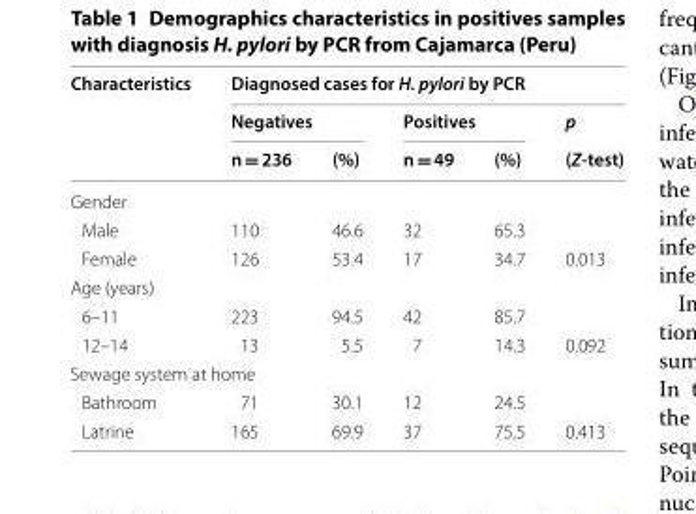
<table><thead><tr><td rowspan="3">Characteristics</td><td colspan="5">Diagnosed cases for H. pylori by PCR</td></tr><tr><td colspan="2">Negatives</td><td colspan="2">Positives</td><td rowspan="2">p (Z-test)</td></tr><tr><td>n = 236</td><td>(%)</td><td>n = 49</td><td>(%)</td></tr></thead><tbody><tr><td colspan="6">Gender</td></tr><tr><td>Male</td><td>110</td><td>46.6</td><td>32</td><td>65.3</td><td></td></tr><tr><td>Female</td><td>126</td><td>53.4</td><td>17</td><td>34.7</td><td>0.013</td></tr><tr><td colspan="6">Age (years)</td></tr><tr><td>6–11</td><td>223</td><td>94.5</td><td>42</td><td>85.7</td><td></td></tr><tr><td>12–14</td><td>13</td><td>5.5</td><td>7</td><td>14.3</td><td>0.092</td></tr><tr><td colspan="6">Sewage system at home</td></tr><tr><td>Bathroom</td><td>71</td><td>30.1</td><td>12</td><td>24.5</td><td></td></tr><tr><td>Latrine</td><td>165</td><td>69.9</td><td>37</td><td>75.5</td><td>0.413</td></tr></tbody></table>